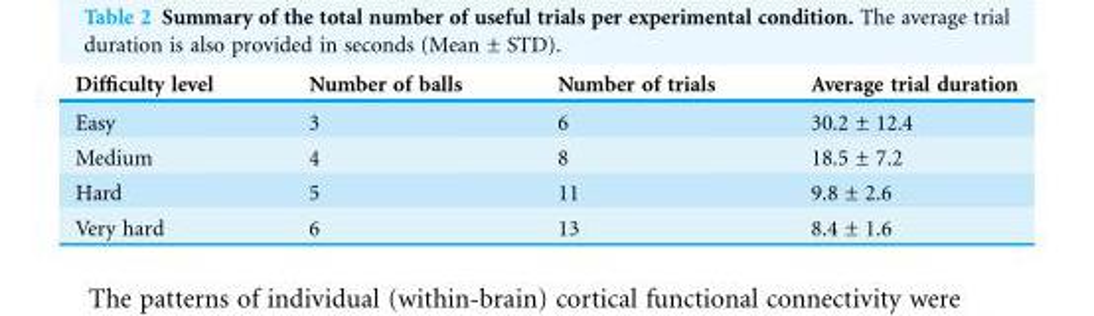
<table><thead><tr><td>Difficulty level</td><td>Number of balls</td><td>Number of trials</td><td>Average trial duration</td></tr></thead><tbody><tr><td>Easy</td><td>3</td><td>6</td><td>30.2 ± 12.4</td></tr><tr><td>Medium</td><td>4</td><td>8</td><td>18.5 ± 7.2</td></tr><tr><td>Hard</td><td>5</td><td>11</td><td>9.8 ± 2.6</td></tr><tr><td>Very hard</td><td>6</td><td>13</td><td>8.4 ± 1.6</td></tr></tbody></table>